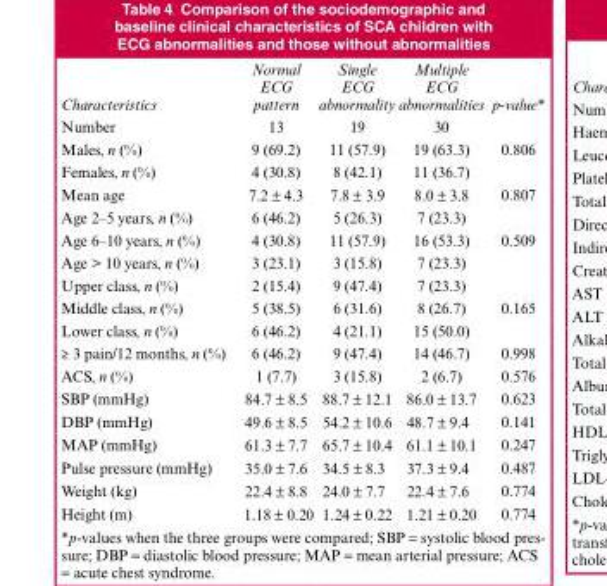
<table><thead><tr><td>Characteristics</td><td>Normal ECG pattern</td><td>Single ECG abnormality</td><td>Multiple ECG abnormalities</td><td>p-value*</td></tr></thead><tbody><tr><td>Number</td><td>13</td><td>19</td><td>30</td><td></td></tr><tr><td>Males, n (%)</td><td>9 (69.2)</td><td>11 (57.9)</td><td>19 (63.3)</td><td>0.806</td></tr><tr><td>Females, n (%)</td><td>4 (30.8)</td><td>8 (42.1)</td><td>11 (36.7)</td><td></td></tr><tr><td>Mean age</td><td>7.2 ± 4.3</td><td>7.8 ± 3.9</td><td>8.0 ± 3.8</td><td>0.807</td></tr><tr><td>Age 2–5 years, n (%)</td><td>6 (46.2)</td><td>5 (26.3)</td><td>7 (23.3)</td><td></td></tr><tr><td>Age 6–10 years, n (%)</td><td>4 (30.8)</td><td>11 (57.9)</td><td>16 (53.3)</td><td>0.509</td></tr><tr><td>Age &gt; 10 years, n (%)</td><td>3 (23.1)</td><td>3 (15.8)</td><td>7 (23.3)</td><td></td></tr><tr><td>Upper class, n (%)</td><td>2 (15.4)</td><td>9 (47.4)</td><td>7 (23.3)</td><td></td></tr><tr><td>Middle class, n (%)</td><td>5 (38.5)</td><td>6 (31.6)</td><td>8 (26.7)</td><td>0.165</td></tr><tr><td>Lower class, n (%)</td><td>6 (46.2)</td><td>4 (21.1)</td><td>15 (50.0)</td><td></td></tr><tr><td>≥ 3 pain/12 months, n (%)</td><td>6 (46.2)</td><td>9 (47.4)</td><td>14 (46.7)</td><td>0.998</td></tr><tr><td>ACS, n (%)</td><td>1 (7.7)</td><td>3 (15.8)</td><td>2 (6.7)</td><td>0.576</td></tr><tr><td>SBP (mmHg)</td><td>84.7 ± 8.5</td><td>88.7 ± 12.1</td><td>86.0 ± 13.7</td><td>0.623</td></tr><tr><td>DBP (mmHg)</td><td>49.6 ± 8.5</td><td>54.2 ± 10.6</td><td>48.7 ± 9.4</td><td>0.141</td></tr><tr><td>MAP (mmHg)</td><td>61.3 ± 7.7</td><td>65.7 ± 10.4</td><td>61.1 ± 10.1</td><td>0.247</td></tr><tr><td>Pulse pressure (mmHg)</td><td>35.0 ± 7.6</td><td>34.5 ± 8.3</td><td>37.3 ± 9.4</td><td>0.487</td></tr><tr><td>Weight (kg)</td><td>22.4 ± 8.8</td><td>24.0 ± 7.7</td><td>22.4 ± 7.6</td><td>0.774</td></tr><tr><td>Height (m)</td><td>1.18 ± 0.20</td><td>1.24 ± 0.22</td><td>1.21 ± 0.20</td><td>0.774</td></tr></tbody></table>